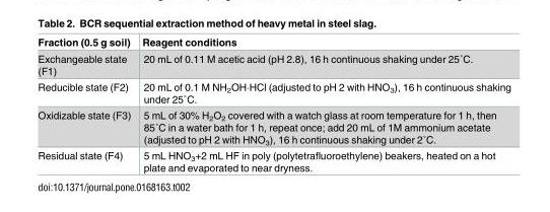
<table><thead><tr><td>Fraction (0.5 g soil)</td><td>Reagent conditions</td></tr></thead><tbody><tr><td>Exchangeable state (F1)</td><td>20 mL of 0.11 M acetic acid (pH 2.8), 16 h continuous shaking under 25˚C.</td></tr><tr><td>Reducible state (F2)</td><td>20 mL of 0.1 M NH2OH·HCl (adjusted to pH 2 with HNO3), 16 h continuous shaking under 25˚C.</td></tr><tr><td>Oxidizable state (F3)</td><td>5 mL of 30% H2O2 covered with a watch glass at room temperature for 1 h, then 85˚C in a water bath for 1 h, repeat once; add 20 mL of 1M ammonium acetate (adjusted to pH 2 with HNO3), 16 h continuous shaking under 2˚C.</td></tr><tr><td>Residual state (F4)</td><td>5 mL HNO<sub>3</sub>+2 mL HF in poly (polytetrafluoroethylene) beakers, heated on a hot plate and evaporated to near dryness.</td></tr></tbody></table>